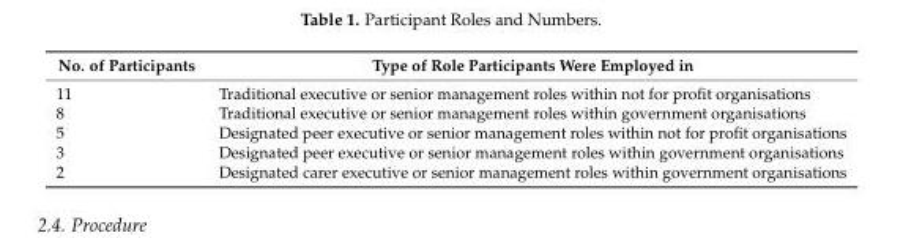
<table><thead><tr><td>No. of Participants</td><td>Type of Role Participants Were Employed in</td></tr></thead><tbody><tr><td>11</td><td>Traditional executive or senior management roles within not for profit organisations</td></tr><tr><td>8</td><td>Traditional executive or senior management roles within government organisations</td></tr><tr><td>5</td><td>Designated peer executive or senior management roles within not for profit organisations</td></tr><tr><td>3</td><td>Designated peer executive or senior management roles within government organisations</td></tr><tr><td>2</td><td>Designated carer executive or senior management roles within government organisations</td></tr></tbody></table>